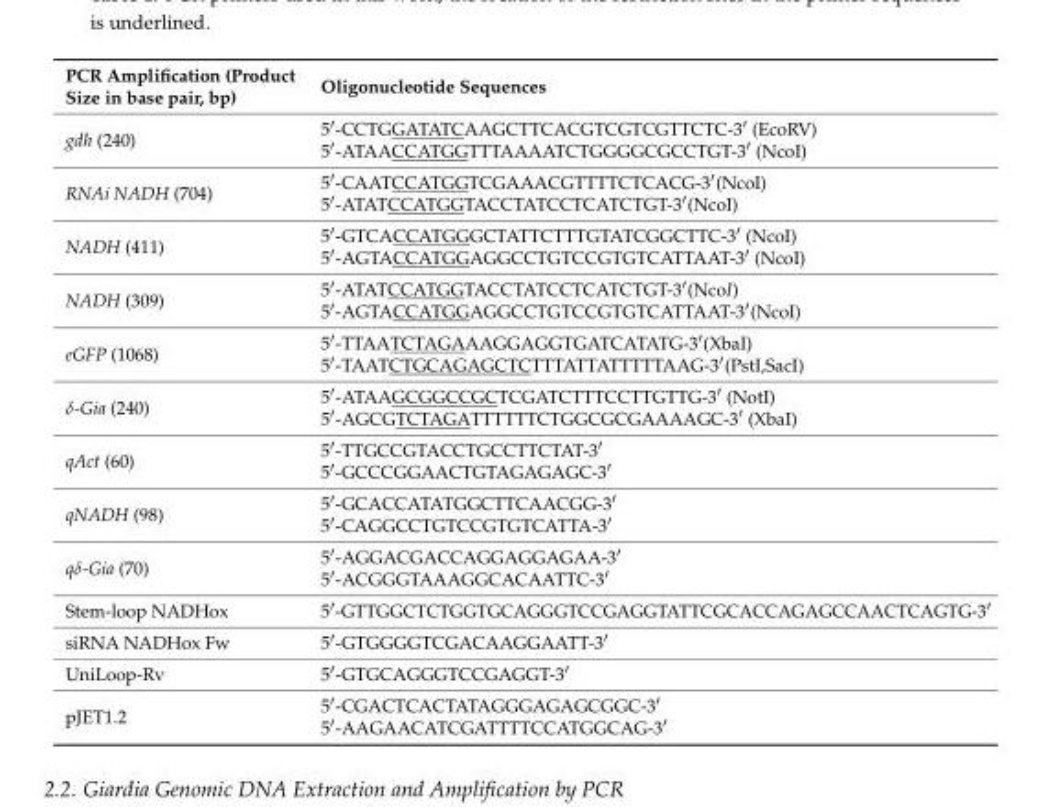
<table><thead><tr><td>PCR Amplification (Product Size in base pair, bp)</td><td>Oligonucleotide Sequences</td></tr></thead><tbody><tr><td>gdh (240)</td><td>5′-CCTGGATATCAAGCTTCACGTCGTCGTTCTC-3′ (EcoRV) 5′-ATAACCATGGTTTAAAATCTGGGGCGCCTGT-3′ (NcoI)</td></tr><tr><td>RNAi NADH (704)</td><td>5′-CAATCCATGGTCGAAACGTTTTCTCACG-3′(NcoI) 5′-ATATCCATGGTACCTATCCTCATCTGT-3′(NcoI)</td></tr><tr><td>NADH (411)</td><td>5′-GTCACCATGGGCTATTCTTTGTATCGGCTTC-3′ (NcoI) 5′-AGTACCATGGAGGCCTGTCCGTGTCATTAAT-3′ (NcoI)</td></tr><tr><td>NADH (309)</td><td>5′-ATATCCATGGTACCTATCCTCATCTGT-3′(NcoI) 5′-AGTACCATGGAGGCCTGTCCGTGTCATTAAT-3′(NcoI)</td></tr><tr><td>eGFP (1068)</td><td>5′-TTAATCTAGAAAGGAGGTGATCATATG-3′(XbaI) 5′-TAATCTGCAGAGCTCTTTATTATTTTTAAG-3′(PstI,SacI)</td></tr><tr><td>δ-Gia (240)</td><td>5′-ATAAGCGGCCGCTCGATCTTTCCTTGTTG-3′ (NotI) 5′-AGCGTCTAGATTTTTTCTGGCGCGAAAAGC-3′ (XbaI)</td></tr><tr><td>qAct (60)</td><td>5′-TTGCCGTACCTGCCTTCTAT-3′ 5′-GCCCGGAACTGTAGAGAGC-3′</td></tr><tr><td>qNADH (98)</td><td>5′-GCACCATATGGCTTCAACGG-3′ 5′-CAGGCCTGTCCGTGTCATTA-3′</td></tr><tr><td>qδ-Gia (70)</td><td>5′-AGGACGACCAGGAGGAGAA-3′ 5′-ACGGGTAAAGGCACAATTC-3′</td></tr><tr><td>Stem-loop NADHox</td><td>5′-GTTGGCTCTGGTGCAGGGTCCGAGGTATTCGCACCAGAGCCAACTCAGTG-3′</td></tr><tr><td>siRNA NADHox Fw</td><td>5′-GTGGGGTCGACAAGGAATT-3′</td></tr><tr><td>UniLoop-Rv</td><td>5′-GTGCAGGGTCCGAGGT-3′</td></tr><tr><td>pJET1.2</td><td>5′-CGACTCACTATAGGGAGAGCGGC-3′ 5′-AAGAACATCGATTTTCCATGGCAG-3′</td></tr></tbody></table>